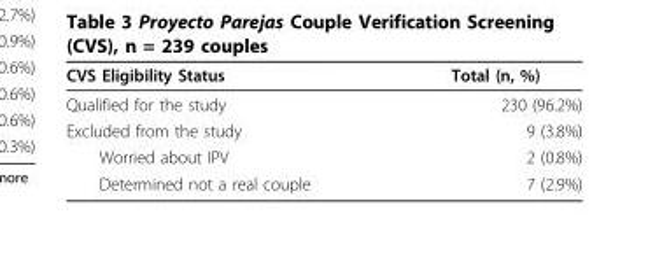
<table><thead><tr><td>CVS Eligibility Status</td><td>Total (n, %)</td></tr></thead><tbody><tr><td>Qualified for the study</td><td>230 (96.2%)</td></tr><tr><td>Excluded from the study</td><td>9 (3.8%)</td></tr><tr><td>Worried about IPV</td><td>2 (0.8%)</td></tr><tr><td>Determined not a real couple</td><td>7 (2.9%)</td></tr></tbody></table>